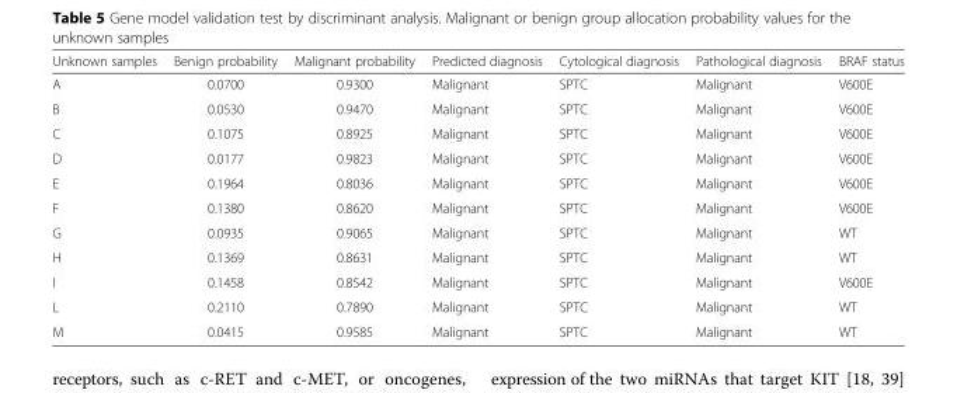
<table><thead><tr><td>Unknown samples</td><td>Benign probability</td><td>Malignant probability</td><td>Predicted diagnosis</td><td>Cytological diagnosis</td><td>Pathological diagnosis</td><td>BRAF status</td></tr></thead><tbody><tr><td>A</td><td>0.0700</td><td>0.9300</td><td>Malignant</td><td>SPTC</td><td>Malignant</td><td>V600E</td></tr><tr><td>B</td><td>0.0530</td><td>0.9470</td><td>Malignant</td><td>SPTC</td><td>Malignant</td><td>V600E</td></tr><tr><td>C</td><td>0.1075</td><td>0.8925</td><td>Malignant</td><td>SPTC</td><td>Malignant</td><td>V600E</td></tr><tr><td>D</td><td>0.0177</td><td>0.9823</td><td>Malignant</td><td>SPTC</td><td>Malignant</td><td>V600E</td></tr><tr><td>E</td><td>0.1964</td><td>0.8036</td><td>Malignant</td><td>SPTC</td><td>Malignant</td><td>V600E</td></tr><tr><td>F</td><td>0.1380</td><td>0.8620</td><td>Malignant</td><td>SPTC</td><td>Malignant</td><td>V600E</td></tr><tr><td>G</td><td>0.0935</td><td>0.9065</td><td>Malignant</td><td>SPTC</td><td>Malignant</td><td>WT</td></tr><tr><td>H</td><td>0.1369</td><td>0.8631</td><td>Malignant</td><td>SPTC</td><td>Malignant</td><td>WT</td></tr><tr><td>I</td><td>0.1458</td><td>0.8542</td><td>Malignant</td><td>SPTC</td><td>Malignant</td><td>V600E</td></tr><tr><td>L</td><td>0.2110</td><td>0.7890</td><td>Malignant</td><td>SPTC</td><td>Malignant</td><td>WT</td></tr><tr><td>M</td><td>0.0415</td><td>0.9585</td><td>Malignant</td><td>SPTC</td><td>Malignant</td><td>WT</td></tr></tbody></table>